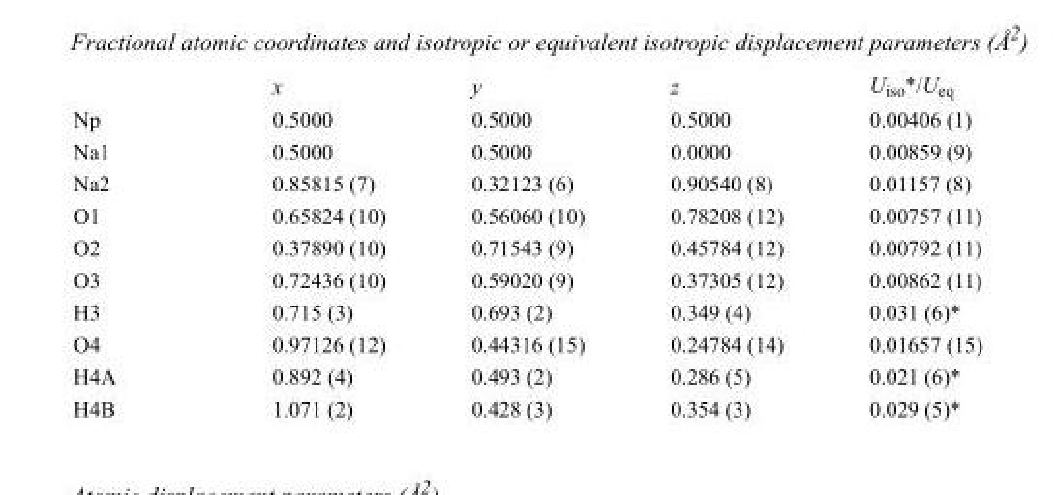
<table><thead><tr><td></td><td>x</td><td>y</td><td>z</td><td>U<sub>iso</sub>*/U<sub>eq</sub></td></tr></thead><tbody><tr><td>Np</td><td>0.5000</td><td>0.5000</td><td>0.5000</td><td>0.00406 (1)</td></tr><tr><td>Na1</td><td>0.5000</td><td>0.5000</td><td>0.0000</td><td>0.00859 (9)</td></tr><tr><td>Na2</td><td>0.85815 (7)</td><td>0.32123 (6)</td><td>0.90540 (8)</td><td>0.01157 (8)</td></tr><tr><td>O1</td><td>0.65824 (10)</td><td>0.56060 (10)</td><td>0.78208 (12)</td><td>0.00757 (11)</td></tr><tr><td>O2</td><td>0.37890 (10)</td><td>0.71543 (9)</td><td>0.45784 (12)</td><td>0.00792 (11)</td></tr><tr><td>O3</td><td>0.72436 (10)</td><td>0.59020 (9)</td><td>0.37305 (12)</td><td>0.00862 (11)</td></tr><tr><td>H3</td><td>0.715 (3)</td><td>0.693 (2)</td><td>0.349 (4)</td><td>0.031 (6)*</td></tr><tr><td>O4</td><td>0.97126 (12)</td><td>0.44316 (15)</td><td>0.24784 (14)</td><td>0.01657 (15)</td></tr><tr><td>H4A</td><td>0.892 (4)</td><td>0.493 (2)</td><td>0.286 (5)</td><td>0.021 (6)*</td></tr><tr><td>H4B</td><td>1.071 (2)</td><td>0.428 (3)</td><td>0.354 (3)</td><td>0.029 (5)*</td></tr></tbody></table>